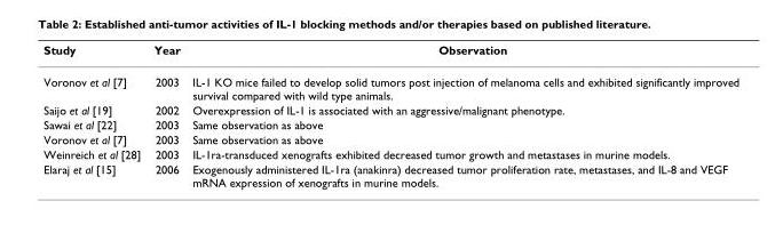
<table><thead><tr><td>Study</td><td>Year</td><td>Observation</td></tr></thead><tbody><tr><td>Voronov et al [7]</td><td>2003</td><td>IL-1 KO mice failed to develop solid tumors post injection of melanoma cells and exhibited significantly improved survival compared with wild type animals.</td></tr><tr><td>Saijo et al [19]</td><td>2002</td><td>Overexpression of IL-1 is associated with an aggressive/malignant phenotype.</td></tr><tr><td>Sawai et al [22]</td><td>2003</td><td>Same observation as above</td></tr><tr><td>Voronov et al [7]</td><td>2003</td><td>Same observation as above</td></tr><tr><td>Weinreich et al [28]</td><td>2003</td><td>IL-1ra-transduced xenografts exhibited decreased tumor growth and metastases in murine models.</td></tr><tr><td>Elaraj et al [15]</td><td>2006</td><td>Exogenously administered IL-1ra (anakinra) decreased tumor proliferation rate, metastases, and IL-8 and VEGF mRNA expression of xenografts in murine models.</td></tr></tbody></table>